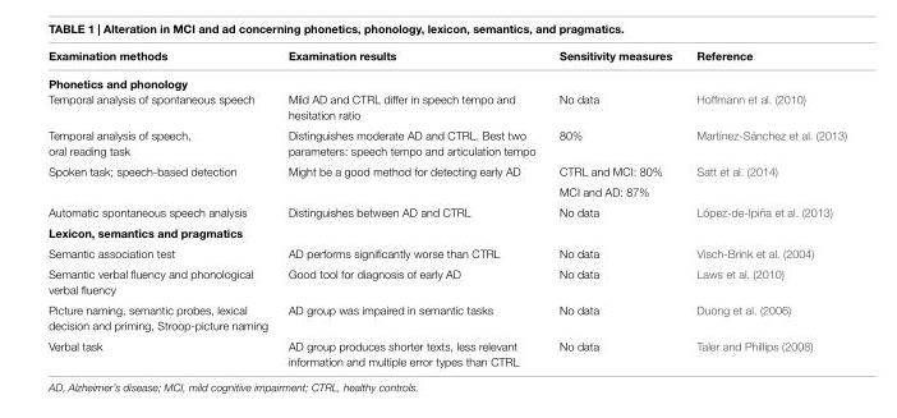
<table><thead><tr><td>examination methods</td><td>examination results</td><td>Sensitivity measures</td><td>Reference</td></tr></thead><tbody><tr><td colspan="4">Phonetics and phonology</td></tr><tr><td>Temporal analysis of spontaneous speech</td><td>Mild AD and CTRL differ in speech tempo and hesitation ratio</td><td>No data</td><td>Hoffmann et al. (2010)</td></tr><tr><td>Temporal analysis of speech, oral reading task</td><td>Distinguishes moderate AD and CTRL. Best two parameters: speech tempo and articulation tempo</td><td>80%</td><td>Martínez-Sánchez et al. (2013)</td></tr><tr><td rowspan="2">Spoken task; speech-based detection</td><td rowspan="2">Might be a good method for detecting early AD</td><td>CTRL and MCI: 80%</td><td rowspan="2">Satt et al. (2014)</td></tr><tr><td>MCI and AD: 87%</td></tr><tr><td>Automatic spontaneous speech analysis</td><td>Distinguishes between AD and CTRL</td><td>No data</td><td>López-de-Ipiña et al. (2013)</td></tr><tr><td colspan="4">Lexicon, semantics and pragmatics</td></tr><tr><td>Semantic association test</td><td>AD performs significantly worse than CTRL</td><td>No data</td><td>Visch-Brink et al. (2004)</td></tr><tr><td>Semantic verbal fluency and phonological verbal fluency</td><td>Good tool for diagnosis of early AD</td><td>No data</td><td>Laws et al. (2010)</td></tr><tr><td>Picture naming, semantic probes, lexical decision and priming, Stroop-picture naming</td><td>AD group was impaired in semantic tasks</td><td>No data</td><td>Duong et al. (2006)</td></tr><tr><td>Verbal task</td><td>AD group produces shorter texts, less relevant information and multiple error types than CTRL</td><td>No data</td><td>Taler and Phillips (2008)</td></tr></tbody></table>